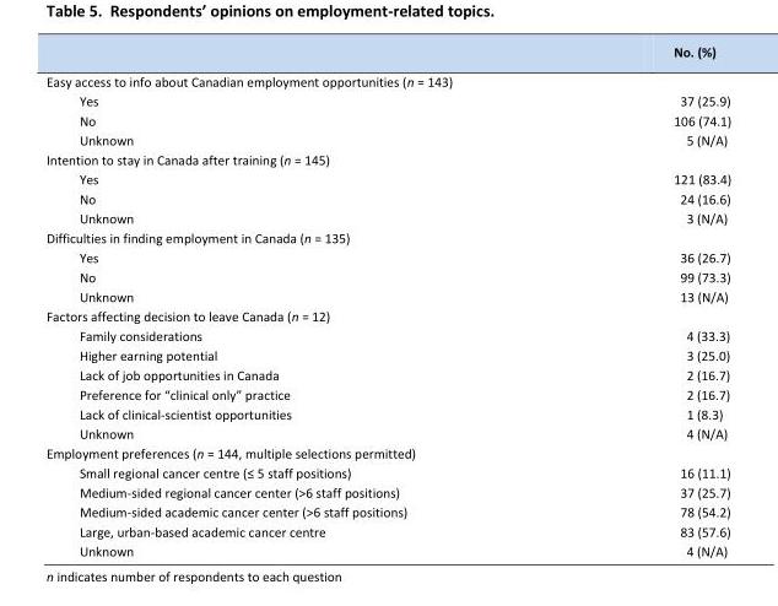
<table><thead><tr><td></td><td>No. (%)</td></tr></thead><tbody><tr><td colspan="2">Easy access to info about Canadian employment opportunities (n = 143)</td></tr><tr><td>Yes</td><td>37 (25.9)</td></tr><tr><td>No</td><td>106 (74.1)</td></tr><tr><td>Unknown</td><td>5 (N/A)</td></tr><tr><td colspan="2">Intention to stay in Canada after training (n = 145)</td></tr><tr><td>Yes</td><td>121 (83.4)</td></tr><tr><td>No</td><td>24 (16.6)</td></tr><tr><td>Unknown</td><td>3 (N/A)</td></tr><tr><td colspan="2">Difficulties in finding employment in Canada (n = 135)</td></tr><tr><td>Yes</td><td>36 (26.7)</td></tr><tr><td>No</td><td>99 (73.3)</td></tr><tr><td>Unknown</td><td>13 (N/A)</td></tr><tr><td colspan="2">Factors affecting decision to leave Canada (n = 12)</td></tr><tr><td>Family considerations</td><td>4 (33.3)</td></tr><tr><td>Higher earning potential</td><td>3 (25.0)</td></tr><tr><td>Lack of job opportunities in Canada</td><td>2 (16.7)</td></tr><tr><td>Preference for “clinical only” practice</td><td>2 (16.7)</td></tr><tr><td>Lack of clinical-scientist opportunities</td><td>1 (8.3)</td></tr><tr><td>Unknown</td><td>4 (N/A)</td></tr><tr><td colspan="2">Employment preferences (n = 144, multiple selections permitted)</td></tr><tr><td>Small regional cancer centre (≤ 5 staff positions)</td><td>16 (11.1)</td></tr><tr><td>Medium-sided regional cancer center (&gt;6 staff positions)</td><td>37 (25.7)</td></tr><tr><td>Medium-sided academic cancer center (&gt;6 staff positions)</td><td>78 (54.2)</td></tr><tr><td>Large, urban-based academic cancer centre</td><td>83 (57.6)</td></tr><tr><td>Unknown</td><td>4 (N/A)</td></tr></tbody></table>